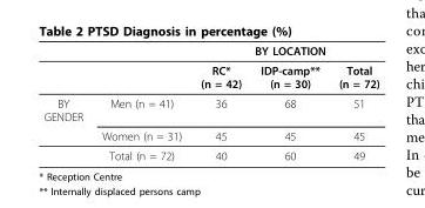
<table><thead><tr><td rowspan="2"></td><td rowspan="2"></td><td colspan="3">BY LOCATION</td></tr><tr><td>RC* (n = 42)</td><td>IDP-camp** (n = 30)</td><td>Total (n = 72)</td></tr></thead><tbody><tr><td rowspan="3">BY GENDER</td><td>Men (n = 41)</td><td>36</td><td>68</td><td>51</td></tr><tr><td>Women (n = 31)</td><td>45</td><td>45</td><td>45</td></tr><tr><td>Total (n = 72)</td><td>40</td><td>60</td><td>49</td></tr></tbody></table>